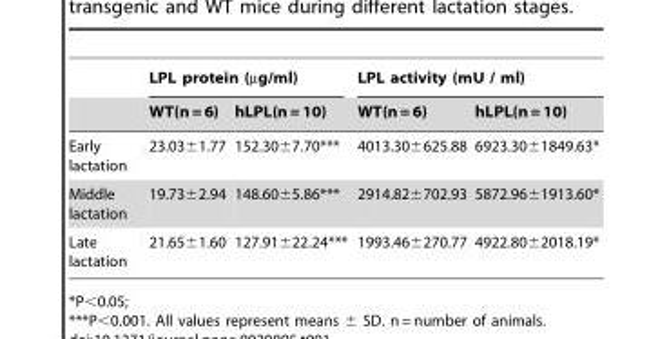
<table><thead><tr><td rowspan="2"></td><td colspan="2">LPL protein (µg/ml)</td><td colspan="2">LPL activity (mU / ml)</td></tr><tr><td>WT(n = 6)</td><td>hLPL(n = 10)</td><td>WT(n = 6)</td><td>hLPL(n = 10)</td></tr></thead><tbody><tr><td>Early lactation</td><td>23.03±1.77</td><td>152.30±7.70***</td><td>4013.30±625.88</td><td>6923.30±1849.63*</td></tr><tr><td>Middle lactation</td><td>19.73±2.94</td><td>148.60±5.86***</td><td>2914.82±702.93</td><td>5872.96±1913.60*</td></tr><tr><td>Late lactation</td><td>21.65±1.60</td><td>127.91±22.24***</td><td>1993.46±270.77</td><td>4922.80±2018.19*</td></tr></tbody></table>